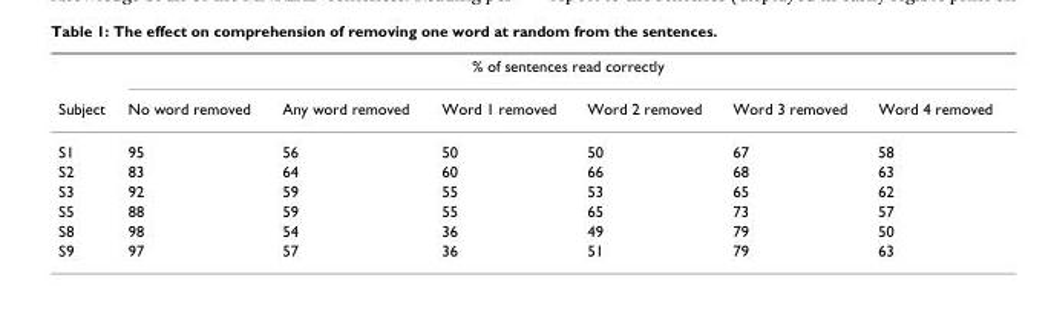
<table><thead><tr><td rowspan="2">Subject</td><td colspan="6">% of sentences read correctly</td></tr><tr><td>No word removed</td><td>Any word removed</td><td>Word 1 removed</td><td>Word 2 removed</td><td>Word 3 removed</td><td>Word 4 removed</td></tr></thead><tbody><tr><td>S1</td><td>95</td><td>56</td><td>50</td><td>50</td><td>67</td><td>58</td></tr><tr><td>S2</td><td>83</td><td>64</td><td>60</td><td>66</td><td>68</td><td>63</td></tr><tr><td>S3</td><td>92</td><td>59</td><td>55</td><td>53</td><td>65</td><td>62</td></tr><tr><td>S5</td><td>88</td><td>59</td><td>55</td><td>65</td><td>73</td><td>57</td></tr><tr><td>S8</td><td>98</td><td>54</td><td>36</td><td>49</td><td>79</td><td>50</td></tr><tr><td>S9</td><td>97</td><td>57</td><td>36</td><td>51</td><td>79</td><td>63</td></tr></tbody></table>